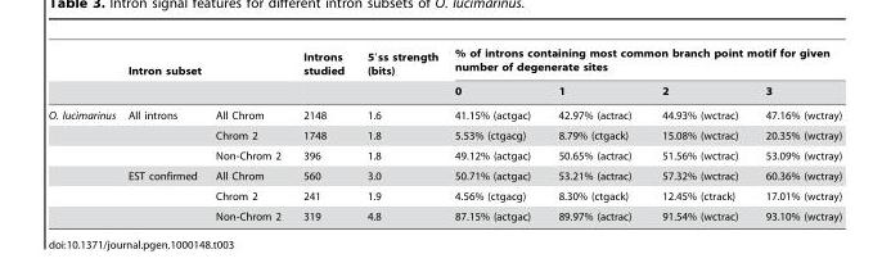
<table><thead><tr><td rowspan="2"></td><td colspan="2">Intron subset</td><td rowspan="2">Introns studied</td><td rowspan="2">5′ss strength (bits)</td><td colspan="4">% of introns containing most common branch point motif for given number of degenerate sites</td></tr><tr><td></td><td></td><td>0</td><td>1</td><td>2</td><td>3</td></tr></thead><tbody><tr><td rowspan="6">O. lucimarinus</td><td>All introns</td><td>All Chrom</td><td>2148</td><td>1.6</td><td>41.15% (actgac)</td><td>42.97% (actrac)</td><td>44.93% (wctrac)</td><td>47.16% (wctray)</td></tr><tr><td></td><td>Chrom 2</td><td>1748</td><td>1.8</td><td>5.53% (ctgacg)</td><td>8.79% (ctgack)</td><td>15.08% (wctrac)</td><td>20.35% (wctray)</td></tr><tr><td></td><td>Non-Chrom 2</td><td>396</td><td>1.8</td><td>49.12% (actgac)</td><td>50.65% (actrac)</td><td>51.56% (wctrac)</td><td>53.09% (wctray)</td></tr><tr><td>EST confirmed</td><td>All Chrom</td><td>560</td><td>3.0</td><td>50.71% (actgac)</td><td>53.21% (actrac)</td><td>57.32% (wctrac)</td><td>60.36% (wctray)</td></tr><tr><td></td><td>Chrom 2</td><td>241</td><td>1.9</td><td>4.56% (ctgacg)</td><td>8.30% (ctgack)</td><td>12.45% (ctrack)</td><td>17.01% (wctray)</td></tr><tr><td></td><td>Non-Chrom 2</td><td>319</td><td>4.8</td><td>87.15% (actgac)</td><td>89.97% (actrac)</td><td>91.54% (wctrac)</td><td>93.10% (wctray)</td></tr></tbody></table>